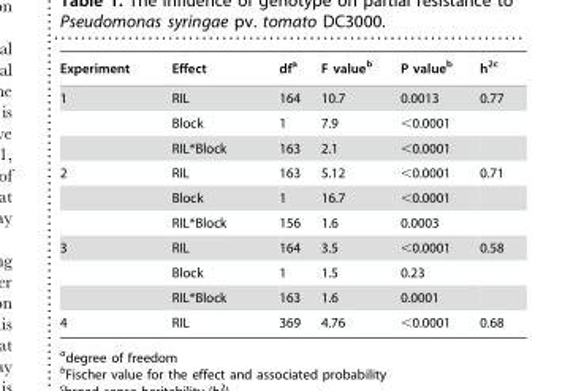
<table><thead><tr><td>Experiment</td><td>Effect</td><td>df<sup>a</sup></td><td>F value<sup>b</sup></td><td>P value<sup>b</sup></td><td>h<sup>2</sup>c</td></tr></thead><tbody><tr><td rowspan="3">1</td><td>RIL</td><td>164</td><td>10.7</td><td>0.0013</td><td>0.77</td></tr><tr><td>Block</td><td>1</td><td>7.9</td><td>&lt;0.0001</td><td></td></tr><tr><td>RIL*Block</td><td>163</td><td>2.1</td><td>&lt;0.0001</td><td></td></tr><tr><td rowspan="3">2</td><td>RIL</td><td>163</td><td>5.12</td><td>&lt;0.0001</td><td>0.71</td></tr><tr><td>Block</td><td>1</td><td>16.7</td><td>&lt;0.0001</td><td></td></tr><tr><td>RIL*Block</td><td>156</td><td>1.6</td><td>0.0003</td><td></td></tr><tr><td rowspan="3">3</td><td>RIL</td><td>164</td><td>3.5</td><td>&lt;0.0001</td><td>0.58</td></tr><tr><td>Block</td><td>1</td><td>1.5</td><td>0.23</td><td></td></tr><tr><td>RIL*Block</td><td>163</td><td>1.6</td><td>0.0001</td><td></td></tr><tr><td>4</td><td>RIL</td><td>369</td><td>4.76</td><td>&lt;0.0001</td><td>0.68</td></tr></tbody></table>